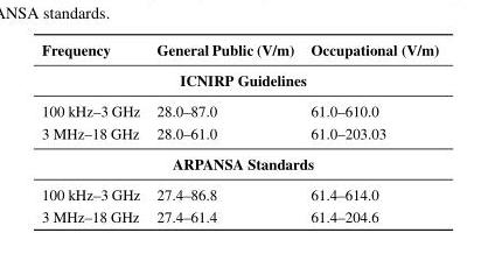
<table><thead><tr><td>Frequency</td><td>General Public (V/m)</td><td>Occupational (V/m)</td></tr></thead><tbody><tr><td colspan="3">ICNIRP Guidelines</td></tr><tr><td>100 kHz–3 GHz</td><td>28.0–87.0</td><td>61.0–610.0</td></tr><tr><td>3 MHz–18 GHz</td><td>28.0–61.0</td><td>61.0–203.03</td></tr><tr><td colspan="3">ARPANSA Standards</td></tr><tr><td>100 kHz–3 GHz</td><td>27.4–86.8</td><td>61.4–614.0</td></tr><tr><td>3 MHz–18 GHz</td><td>27.4–61.4</td><td>61.4–204.6</td></tr></tbody></table>